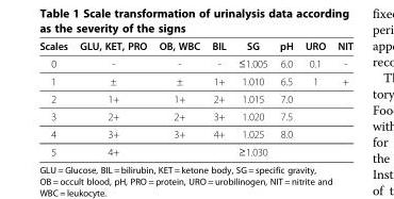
<table><thead><tr><td>Scales</td><td>GLU, KET, PRO</td><td>OB, WBC</td><td>BIL</td><td>SG</td><td>pH</td><td>URO</td><td>NIT</td></tr></thead><tbody><tr><td>0</td><td>-</td><td>-</td><td>-</td><td>≤1.005</td><td>6.0</td><td>0.1</td><td>-</td></tr><tr><td>1</td><td>±</td><td>±</td><td>1+</td><td>1.010</td><td>6.5</td><td>1</td><td>+</td></tr><tr><td>2</td><td>1+</td><td>1+</td><td>2+</td><td>1.015</td><td>7.0</td><td></td><td></td></tr><tr><td>3</td><td>2+</td><td>2+</td><td>3+</td><td>1.020</td><td>7.5</td><td></td><td></td></tr><tr><td>4</td><td>3+</td><td>3+</td><td>4+</td><td>1.025</td><td>8.0</td><td></td><td></td></tr><tr><td>5</td><td>4+</td><td></td><td></td><td>≥1.030</td><td></td><td></td><td></td></tr></tbody></table>